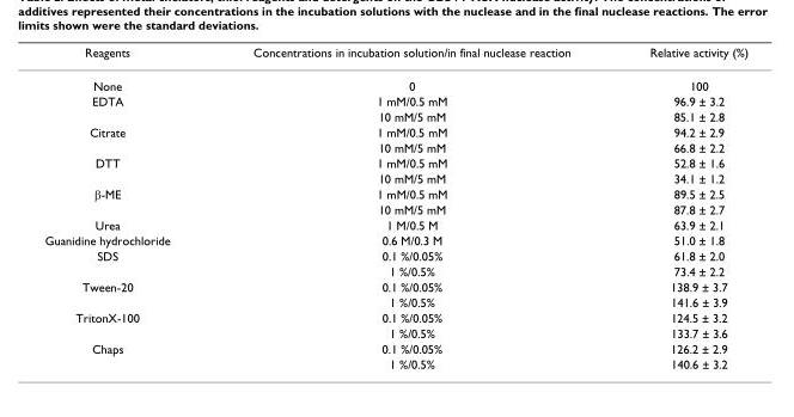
<table><thead><tr><td>Reagents</td><td>Concentrations in incubation solution/in final nuclease reaction</td><td>Relative activity (%)</td></tr></thead><tbody><tr><td>None</td><td>0</td><td>100</td></tr><tr><td rowspan="2">EDTA</td><td>1 mM/0.5 mM</td><td>96.9 ± 3.2</td></tr><tr><td>10 mM/5 mM</td><td>85.1 ± 2.8</td></tr><tr><td rowspan="2">Citrate</td><td>1 mM/0.5 mM</td><td>94.2 ± 2.9</td></tr><tr><td>10 mM/5 mM</td><td>66.8 ± 2.2</td></tr><tr><td rowspan="2">DTT</td><td>1 mM/0.5 mM</td><td>52.8 ± 1.6</td></tr><tr><td>10 mM/5 mM</td><td>34.1 ± 1.2</td></tr><tr><td rowspan="2">β-ME</td><td>1 mM/0.5 mM</td><td>89.5 ± 2.5</td></tr><tr><td>10 mM/5 mM</td><td>87.8 ± 2.7</td></tr><tr><td>Urea</td><td>1 M/0.5 M</td><td>63.9 ± 2.1</td></tr><tr><td>Guanidine hydrochloride</td><td>0.6 M/0.3 M</td><td>51.0 ± 1.8</td></tr><tr><td rowspan="2">SDS</td><td>0.1 %/0.05%</td><td>61.8 ± 2.0</td></tr><tr><td>1 %/0.5%</td><td>73.4 ± 2.2</td></tr><tr><td rowspan="2">Tween-20</td><td>0.1 %/0.05%</td><td>138.9 ± 3.7</td></tr><tr><td>1 %/0.5%</td><td>141.6 ± 3.9</td></tr><tr><td rowspan="2">TritonX-100</td><td>0.1 %/0.05%</td><td>124.5 ± 3.2</td></tr><tr><td>1 %/0.5%</td><td>133.7 ± 3.6</td></tr><tr><td rowspan="2">Chaps</td><td>0.1 %/0.05%</td><td>126.2 ± 2.9</td></tr><tr><td>1 %/0.5%</td><td>140.6 ± 3.2</td></tr></tbody></table>